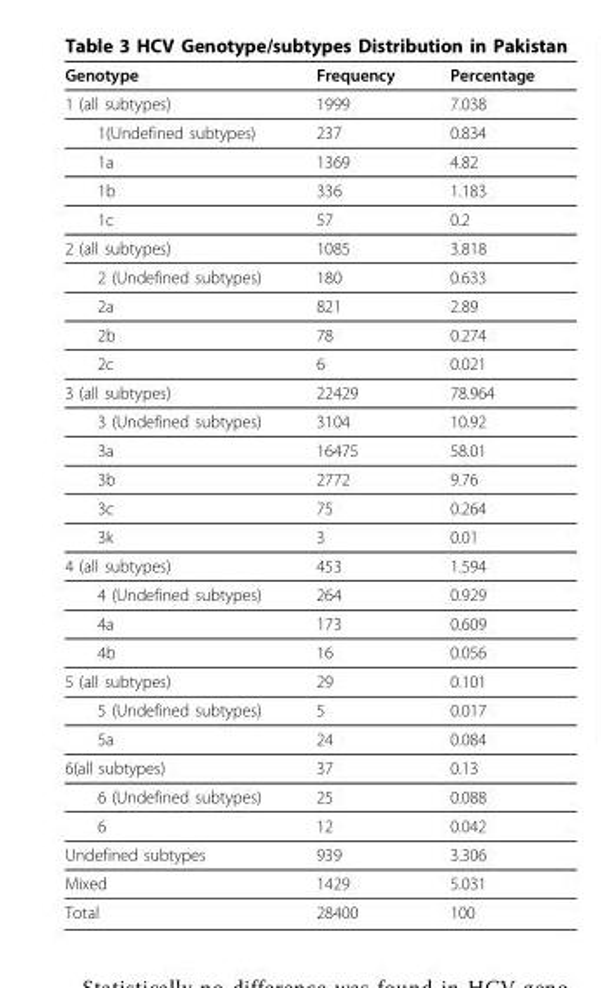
<table><thead><tr><td>Genotype</td><td>Frequency</td><td>Percentage</td></tr></thead><tbody><tr><td>1 (all subtypes)</td><td>1999</td><td>7.038</td></tr><tr><td>1(Undefined subtypes)</td><td>237</td><td>0.834</td></tr><tr><td>1a</td><td>1369</td><td>4.82</td></tr><tr><td>1b</td><td>336</td><td>1.183</td></tr><tr><td>1c</td><td>57</td><td>0.2</td></tr><tr><td>2 (all subtypes)</td><td>1085</td><td>3.818</td></tr><tr><td>2 (Undefined subtypes)</td><td>180</td><td>0.633</td></tr><tr><td>2a</td><td>821</td><td>2.89</td></tr><tr><td>2b</td><td>78</td><td>0.274</td></tr><tr><td>2c</td><td>6</td><td>0.021</td></tr><tr><td>3 (all subtypes)</td><td>22429</td><td>78.964</td></tr><tr><td>3 (Undefined subtypes)</td><td>3104</td><td>10.92</td></tr><tr><td>3a</td><td>16475</td><td>58.01</td></tr><tr><td>3b</td><td>2772</td><td>9.76</td></tr><tr><td>3c</td><td>75</td><td>0.264</td></tr><tr><td>3k</td><td>3</td><td>0.01</td></tr><tr><td>4 (all subtypes)</td><td>453</td><td>1.594</td></tr><tr><td>4 (Undefined subtypes)</td><td>264</td><td>0.929</td></tr><tr><td>4a</td><td>173</td><td>0.609</td></tr><tr><td>4b</td><td>16</td><td>0.056</td></tr><tr><td>5 (all subtypes)</td><td>29</td><td>0.101</td></tr><tr><td>5 (Undefined subtypes)</td><td>5</td><td>0.017</td></tr><tr><td>5a</td><td>24</td><td>0.084</td></tr><tr><td>6(all subtypes)</td><td>37</td><td>0.13</td></tr><tr><td>6 (Undefined subtypes)</td><td>25</td><td>0.088</td></tr><tr><td>6</td><td>12</td><td>0.042</td></tr><tr><td>Undefined subtypes</td><td>939</td><td>3.306</td></tr><tr><td>Mixed</td><td>1429</td><td>5.031</td></tr><tr><td>Total</td><td>28400</td><td>100</td></tr></tbody></table>